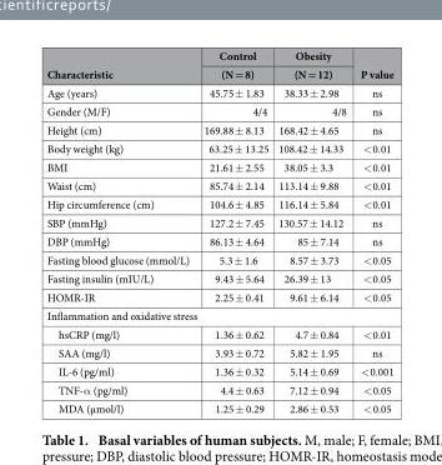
<table><thead><tr><td rowspan="2">Characteristic</td><td rowspan="2">Control (N = 8)</td><td rowspan="2">Obesity (N = 12)</td><td rowspan="2">P value</td></tr><tr></tr></thead><tbody><tr><td>Age (years)</td><td>45.75 ± 1.83</td><td>38.33 ± 2.98</td><td>ns</td></tr><tr><td>Gender (M/F)</td><td>4/4</td><td>4/8</td><td>ns</td></tr><tr><td>Height (cm)</td><td>169.88 ± 8.13</td><td>168.42 ± 4.65</td><td>ns</td></tr><tr><td>Body weight (kg)</td><td>63.25 ± 13.25</td><td>108.42 ± 14.33</td><td>&lt; 0.01</td></tr><tr><td>BMI</td><td>21.61 ± 2.55</td><td>38.05 ± 3.3</td><td>&lt; 0.01</td></tr><tr><td>Waist (cm)</td><td>85.74 ± 2.14</td><td>113.14 ± 9.88</td><td>&lt; 0.01</td></tr><tr><td>Hip circumference (cm)</td><td>104.6 ± 4.85</td><td>116.14 ± 5.84</td><td>&lt; 0.01</td></tr><tr><td>SBP (mmHg)</td><td>127.2 ± 7.45</td><td>130.57 ± 14.12</td><td>ns</td></tr><tr><td>DBP (mmHg)</td><td>86.13 ± 4.64</td><td>85 ± 7.14</td><td>ns</td></tr><tr><td>Fasting blood glucose (mmol/L)</td><td>5.3 ± 1.6</td><td>8.57 ± 3.73</td><td>&lt; 0.05</td></tr><tr><td>Fasting insulin (mIU/L)</td><td>9.43 ± 5.64</td><td>26.39 ± 13</td><td>&lt; 0.05</td></tr><tr><td>HOMR-IR</td><td>2.25 ± 0.41</td><td>9.61 ± 6.14</td><td>&lt; 0.05</td></tr><tr><td colspan="4">Inflammation and oxidative stress</td></tr><tr><td>hsCRP (mg/l)</td><td>1.36 ± 0.62</td><td>4.7 ± 0.84</td><td>&lt; 0.01</td></tr><tr><td>SAA (mg/l)</td><td>3.93 ± 0.72</td><td>5.82 ± 1.95</td><td>ns</td></tr><tr><td>IL-6 (pg/ml)</td><td>1.36 ± 0.32</td><td>5.14 ± 0.69</td><td>&lt; 0.001</td></tr><tr><td>TNF-α (pg/ml)</td><td>4.4 ± 0.63</td><td>7.12 ± 0.94</td><td>&lt; 0.05</td></tr><tr><td>MDA (μmol/l)</td><td>1.25 ± 0.29</td><td>2.86 ± 0.53</td><td>&lt; 0.05</td></tr></tbody></table>